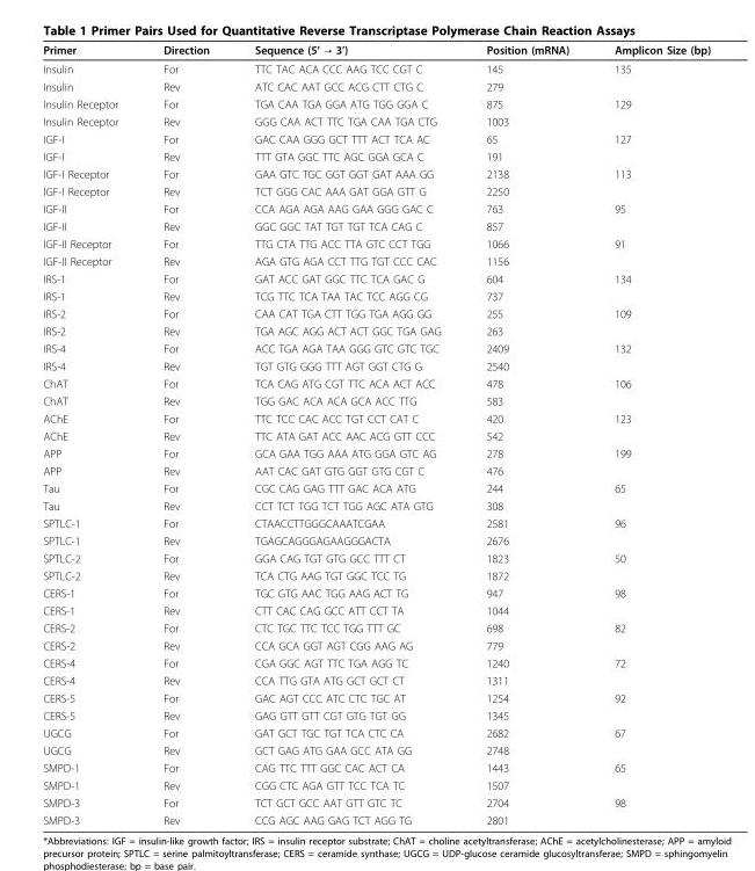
<table><thead><tr><td>Primer</td><td>Direction</td><td>Sequence (5’ → 3’)</td><td>Position (mRNA)</td><td>Amplicon Size (bp)</td></tr></thead><tbody><tr><td>Insulin</td><td>For</td><td>TTC TAC ACA CCC AAG TCC CGT C</td><td>145</td><td>135</td></tr><tr><td>Insulin</td><td>Rev</td><td>ATC CAC AAT GCC ACG CTT CTG C</td><td>279</td><td></td></tr><tr><td>Insulin Receptor</td><td>For</td><td>TGA CAA TGA GGA ATG TGG GGA C</td><td>875</td><td>129</td></tr><tr><td>Insulin Receptor</td><td>Rev</td><td>GGG CAA ACT TTC TGA CAA TGA CTG</td><td>1003</td><td></td></tr><tr><td>IGF-I</td><td>For</td><td>GAC CAA GGG GCT TTT ACT TCA AC</td><td>65</td><td>127</td></tr><tr><td>IGF-I</td><td>Rev</td><td>TTT GTA GGC TTC AGC GGA GCA C</td><td>191</td><td></td></tr><tr><td>IGF-I Receptor</td><td>For</td><td>GAA GTC TGC GGT GGT GAT AAA GG</td><td>2138</td><td>113</td></tr><tr><td>IGF-I Receptor</td><td>Rev</td><td>TCT GGG CAC AAA GAT GGA GTT G</td><td>2250</td><td></td></tr><tr><td>IGF-II</td><td>For</td><td>CCA AGA AGA AAG GAA GGG GAC C</td><td>763</td><td>95</td></tr><tr><td>IGF-II</td><td>Rev</td><td>GGC GGC TAT TGT TGT TCA CAG C</td><td>857</td><td></td></tr><tr><td>IGF-II Receptor</td><td>For</td><td>TTG CTA TTG ACC TTA GTC CCT TGG</td><td>1066</td><td>91</td></tr><tr><td>IGF-II Receptor</td><td>Rev</td><td>AGA GTG AGA CCT TTG TGT CCC CAC</td><td>1156</td><td></td></tr><tr><td>IRS-1</td><td>For</td><td>GAT ACC GAT GGC TTC TCA GAC G</td><td>604</td><td>134</td></tr><tr><td>IRS-1</td><td>Rev</td><td>TCG TTC TCA TAA TAC TCC AGG CG</td><td>737</td><td></td></tr><tr><td>IRS-2</td><td>For</td><td>CAA CAT TGA CTT TGG TGA AGG GG</td><td>255</td><td>109</td></tr><tr><td>IRS-2</td><td>Rev</td><td>TGA AGC AGG ACT ACT GGC TGA GAG</td><td>263</td><td></td></tr><tr><td>IRS-4</td><td>For</td><td>ACC TGA AGA TAA GGG GTC GTC TGC</td><td>2409</td><td>132</td></tr><tr><td>IRS-4</td><td>Rev</td><td>TGT GTG GGG TTT AGT GGT CTG G</td><td>2540</td><td></td></tr><tr><td>ChAT</td><td>For</td><td>TCA CAG ATG CGT TTC ACA ACT ACC</td><td>478</td><td>106</td></tr><tr><td>ChAT</td><td>Rev</td><td>TGG GAC ACA ACA GCA ACC TTG</td><td>583</td><td></td></tr><tr><td>AChE</td><td>For</td><td>TTC TCC CAC ACC TGT CCT CAT C</td><td>420</td><td>123</td></tr><tr><td>AChE</td><td>Rev</td><td>TTC ATA GAT ACC AAC ACG GTT CCC</td><td>542</td><td></td></tr><tr><td>APP</td><td>For</td><td>GCA GAA TGG AAA ATG GGA GTC AG</td><td>278</td><td>199</td></tr><tr><td>APP</td><td>Rev</td><td>AAT CAC GAT GTG GGT GTG CGT C</td><td>476</td><td></td></tr><tr><td>Tau</td><td>For</td><td>CGC CAG GAG TTT GAC ACA ATG</td><td>244</td><td>65</td></tr><tr><td>Tau</td><td>Rev</td><td>CCT TCT TGG TCT TGG AGC ATA GTG</td><td>308</td><td></td></tr><tr><td>SPTLC-1</td><td>For</td><td>CTAACCTTGGGCAAATCGAA</td><td>2581</td><td>96</td></tr><tr><td>SPTLC-1</td><td>Rev</td><td>TGAGCAGGGAGAAGGGACTA</td><td>2676</td><td></td></tr><tr><td>SPTLC-2</td><td>For</td><td>GGA CAG TGT GTG GCC TTT CT</td><td>1823</td><td>50</td></tr><tr><td>SPTLC-2</td><td>Rev</td><td>TCA CTG AAG TGT GGC TCC TG</td><td>1872</td><td></td></tr><tr><td>CERS-1</td><td>For</td><td>TGC GTG AAC TGG AAG ACT TG</td><td>947</td><td>98</td></tr><tr><td>CERS-1</td><td>Rev</td><td>CTT CAC CAG GCC ATT CCT TA</td><td>1044</td><td></td></tr><tr><td>CERS-2</td><td>For</td><td>CTC TGC TTC TCC TGG TTT GC</td><td>698</td><td>82</td></tr><tr><td>CERS-2</td><td>Rev</td><td>CCA GCA GGT AGT CGG AAG AG</td><td>779</td><td></td></tr><tr><td>CERS-4</td><td>For</td><td>CGA GGC AGT TTC TGA AGG TC</td><td>1240</td><td>72</td></tr><tr><td>CERS-4</td><td>Rev</td><td>CCA TTG GTA ATG GCT GCT CT</td><td>1311</td><td></td></tr><tr><td>CERS-5</td><td>For</td><td>GAC AGT CCC ATC CTC TGC AT</td><td>1254</td><td>92</td></tr><tr><td>CERS-5</td><td>Rev</td><td>GAG GTT GTT CGT GTG TGT GG</td><td>1345</td><td></td></tr><tr><td>UGCG</td><td>For</td><td>GAT GCT TGC TGT TCA CTC CA</td><td>2682</td><td>67</td></tr><tr><td>UGCG</td><td>Rev</td><td>GCT GAG ATG GAA GCC ATA GG</td><td>2748</td><td></td></tr><tr><td>SMPD-1</td><td>For</td><td>CAG TTC TTT GGC CAC ACT CA</td><td>1443</td><td>65</td></tr><tr><td>SMPD-1</td><td>Rev</td><td>CGG CTC AGA GTT TCC TCA TC</td><td>1507</td><td></td></tr><tr><td>SMPD-3</td><td>For</td><td>TCT GCT GCC AAT GTT GTC TC</td><td>2704</td><td>98</td></tr><tr><td>SMPD-3</td><td>Rev</td><td>CCG AGC AAG GAG TCT AGG TG</td><td>2801</td><td></td></tr></tbody></table>